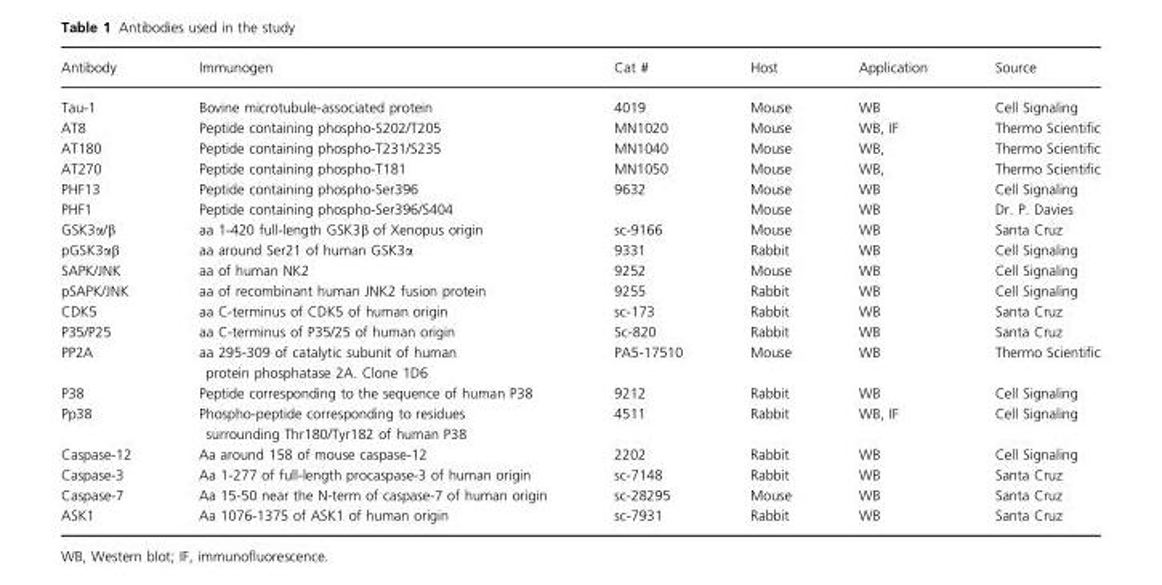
<table><thead><tr><td>Antibody</td><td>Immunogen</td><td>Cat #</td><td>Host</td><td>Application</td><td>Source</td></tr></thead><tbody><tr><td>Tau-1</td><td>Bovine microtubule-associated protein</td><td>4019</td><td>Mouse</td><td>WB</td><td>Cell Signaling</td></tr><tr><td>AT8</td><td>Peptide containing phospho-S202/T205</td><td>MN1020</td><td>Mouse</td><td>WB, IF</td><td>Thermo Scientific</td></tr><tr><td>AT180</td><td>Peptide containing phospho-T231/S235</td><td>MN1040</td><td>Mouse</td><td>WB,</td><td>Thermo Scientific</td></tr><tr><td>AT270</td><td>Peptide containing phospho-T181</td><td>MN1050</td><td>Mouse</td><td>WB,</td><td>Thermo Scientific</td></tr><tr><td>PHF13</td><td>Peptide containing phospho-Ser396</td><td>9632</td><td>Mouse</td><td>WB</td><td>Cell Signaling</td></tr><tr><td>PHF1</td><td>Peptide containing phospho-Ser396/S404</td><td></td><td>Mouse</td><td>WB</td><td>Dr. P. Davies</td></tr><tr><td>GSK3α/β</td><td>aa 1-420 full-length GSK3β of Xenopus origin</td><td>sc-9166</td><td>Mouse</td><td>WB</td><td>Santa Cruz</td></tr><tr><td>pGSK3αβ</td><td>aa around Ser21 of human GSK3α</td><td>9331</td><td>Rabbit</td><td>WB</td><td>Cell Signaling</td></tr><tr><td>SAPK/JNK</td><td>aa of human NK2</td><td>9252</td><td>Mouse</td><td>WB</td><td>Cell Signaling</td></tr><tr><td>pSAPK/JNK</td><td>aa of recombinant human JNK2 fusion protein</td><td>9255</td><td>Rabbit</td><td>WB</td><td>Cell Signaling</td></tr><tr><td>CDK5</td><td>aa C-terminus of CDK5 of human origin</td><td>sc-173</td><td>Rabbit</td><td>WB</td><td>Santa Cruz</td></tr><tr><td>P35/P25</td><td>aa C-terminus of P35/25 of human origin</td><td>Sc-820</td><td>Rabbit</td><td>WB</td><td>Santa Cruz</td></tr><tr><td>PP2A</td><td>aa 295-309 of catalytic subunit of human protein phosphatase 2A. Clone 1D6</td><td>PA5-17510</td><td>Mouse</td><td>WB</td><td>Thermo Scientific</td></tr><tr><td>P38</td><td>Peptide corresponding to the sequence of human P38</td><td>9212</td><td>Rabbit</td><td>WB</td><td>Cell Signaling</td></tr><tr><td>Pp38</td><td>Phospho-peptide corresponding to residues surrounding Thr180/Tyr182 of human P38</td><td>4511</td><td>Rabbit</td><td>WB, IF</td><td>Cell Signaling</td></tr><tr><td>Caspase-12</td><td>Aa around 158 of mouse caspase-12</td><td>2202</td><td>Rabbit</td><td>WB</td><td>Cell Signaling</td></tr><tr><td>Caspase-3</td><td>Aa 1-277 of full-length procaspase-3 of human origin</td><td>sc-7148</td><td>Rabbit</td><td>WB</td><td>Santa Cruz</td></tr><tr><td>Caspase-7</td><td>Aa 15-50 near the N-term of caspase-7 of human origin</td><td>sc-28295</td><td>Mouse</td><td>WB</td><td>Santa Cruz</td></tr><tr><td>ASK1</td><td>Aa 1076-1375 of ASK1 of human origin</td><td>sc-7931</td><td>Rabbit</td><td>WB</td><td>Santa Cruz</td></tr></tbody></table>